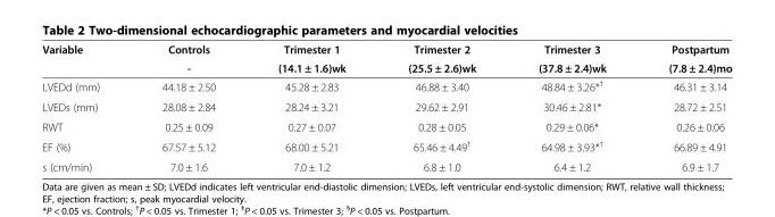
<table><thead><tr><td rowspan="2">Variable</td><td rowspan="2">Controls -</td><td rowspan="2">Trimester 1 (14.1 ± 1.6)wk</td><td rowspan="2">Trimester 2 (25.5 ± 2.6)wk</td><td rowspan="2">Trimester 3 (37.8 ± 2.4)wk</td><td rowspan="2">Postpartum (7.8 ± 2.4)mo</td></tr><tr></tr></thead><tbody><tr><td>LVEDd (mm)</td><td>44.18 ± 2.50</td><td>45.28 ± 2.83</td><td>46.88 ± 3.40</td><td>48.84 ± 3.26*<sup>†</sup></td><td>46.31 ± 3.14</td></tr><tr><td>LVEDs (mm)</td><td>28.08 ± 2.84</td><td>28.24 ± 3.21</td><td>29.62 ± 2.91</td><td>30.46 ± 2.81*</td><td>28.72 ± 2.51</td></tr><tr><td>RWT</td><td>0.25 ± 0.09</td><td>0.27 ± 0.07</td><td>0.28 ± 0.05</td><td>0.29 ± 0.06*</td><td>0.26 ± 0.06</td></tr><tr><td>EF (%)</td><td>67.57 ± 5.12</td><td>68.00 ± 5.21</td><td>65.46 ± 4.49†</td><td>64.98 ± 3.93*<sup>†</sup></td><td>66.89 ± 4.91</td></tr><tr><td>s (cm/min)</td><td>7.0 ± 1.6</td><td>7.0 ± 1.2</td><td>6.8 ± 1.0</td><td>6.4 ± 1.2</td><td>6.9 ± 1.7</td></tr></tbody></table>